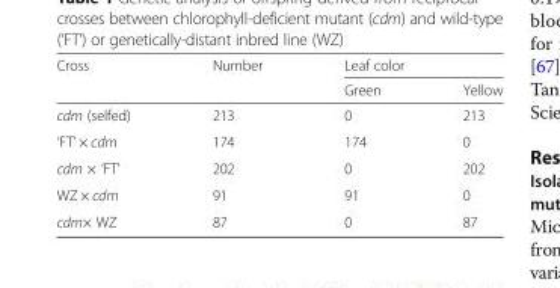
<table><thead><tr><td rowspan="2">Cross</td><td rowspan="2">Number</td><td colspan="2">Leaf color</td></tr><tr><td>Green</td><td>Yellow</td></tr></thead><tbody><tr><td>cdm (selfed)</td><td>213</td><td>0</td><td>213</td></tr><tr><td>‘FT’ × cdm</td><td>174</td><td>174</td><td>0</td></tr><tr><td>cdm × ‘FT’</td><td>202</td><td>0</td><td>202</td></tr><tr><td>WZ × cdm</td><td>91</td><td>91</td><td>0</td></tr><tr><td>cdm× WZ</td><td>87</td><td>0</td><td>87</td></tr></tbody></table>